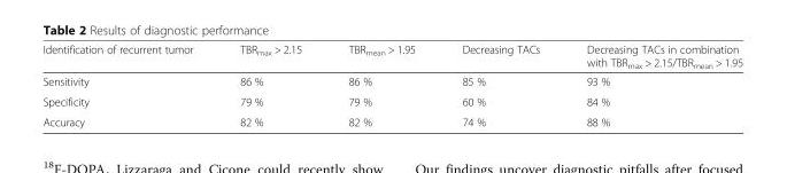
<table><thead><tr><td>Identification of recurrent tumor</td><td>TBR<sub>max</sub> &gt; 2.15</td><td>TBR<sub>mean</sub> &gt; 1.95</td><td>Decreasing TACs</td><td>Decreasing TACs in combination with TBR<sub>max</sub> &gt; 2.15/TBR<sub>mean</sub> &gt; 1.95</td></tr></thead><tbody><tr><td>Sensitivity</td><td>86 %</td><td>86 %</td><td>85 %</td><td>93 %</td></tr><tr><td>Specificity</td><td>79 %</td><td>79 %</td><td>60 %</td><td>84 %</td></tr><tr><td>Accuracy</td><td>82 %</td><td>82 %</td><td>74 %</td><td>88 %</td></tr></tbody></table>